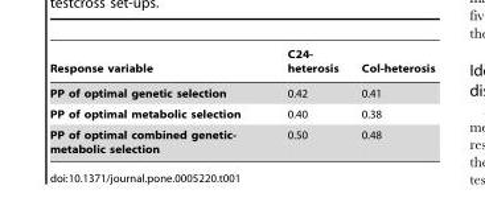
<table><thead><tr><td>Response variable</td><td>C24- heterosis</td><td>Col-heterosis</td></tr></thead><tbody><tr><td>PP of optimal genetic selection</td><td>0.42</td><td>0.41</td></tr><tr><td>PP of optimal metabolic selection</td><td>0.40</td><td>0.38</td></tr><tr><td>PP of optimal combined genetic- metabolic selection</td><td>0.50</td><td>0.48</td></tr></tbody></table>